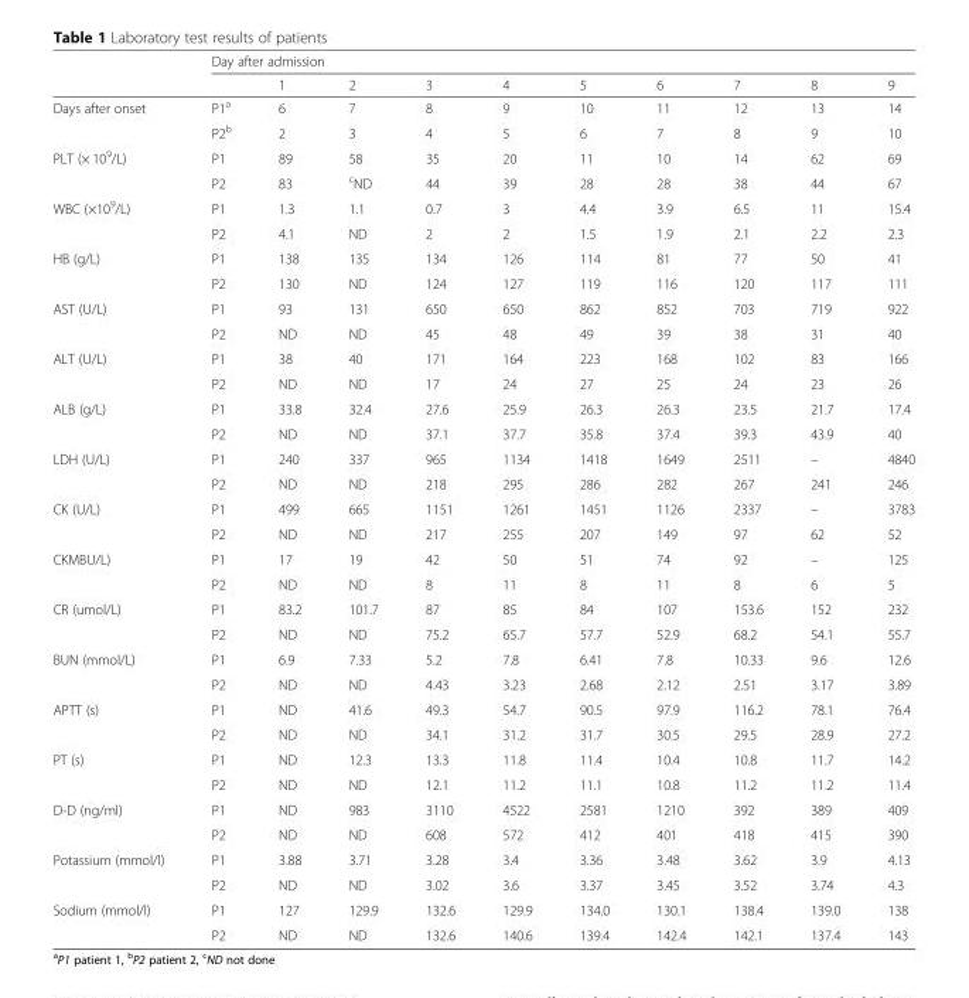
<table><thead><tr><td rowspan="2"></td><td colspan="10">Day after admission</td></tr><tr><td></td><td>1</td><td>2</td><td>3</td><td>4</td><td>5</td><td>6</td><td>7</td><td>8</td><td>9</td></tr></thead><tbody><tr><td rowspan="2">Days after onset</td><td>P1<sup>a</sup></td><td>6</td><td>7</td><td>8</td><td>9</td><td>10</td><td>11</td><td>12</td><td>13</td><td>14</td></tr><tr><td>P2<sup>b</sup></td><td>2</td><td>3</td><td>4</td><td>5</td><td>6</td><td>7</td><td>8</td><td>9</td><td>10</td></tr><tr><td rowspan="2">PLT (× 10<sup>9</sup>/L)</td><td>P1</td><td>89</td><td>58</td><td>35</td><td>20</td><td>11</td><td>10</td><td>14</td><td>62</td><td>69</td></tr><tr><td>P2</td><td>83</td><td><sup>c</sup>ND</td><td>44</td><td>39</td><td>28</td><td>28</td><td>38</td><td>44</td><td>67</td></tr><tr><td rowspan="2">WBC (×10<sup>9</sup>/L)</td><td>P1</td><td>1.3</td><td>1.1</td><td>0.7</td><td>3</td><td>4.4</td><td>3.9</td><td>6.5</td><td>11</td><td>15.4</td></tr><tr><td>P2</td><td>4.1</td><td>ND</td><td>2</td><td>2</td><td>1.5</td><td>1.9</td><td>2.1</td><td>2.2</td><td>2.3</td></tr><tr><td rowspan="2">HB (g/L)</td><td>P1</td><td>138</td><td>135</td><td>134</td><td>126</td><td>114</td><td>81</td><td>77</td><td>50</td><td>41</td></tr><tr><td>P2</td><td>130</td><td>ND</td><td>124</td><td>127</td><td>119</td><td>116</td><td>120</td><td>117</td><td>111</td></tr><tr><td rowspan="2">AST (U/L)</td><td>P1</td><td>93</td><td>131</td><td>650</td><td>650</td><td>862</td><td>852</td><td>703</td><td>719</td><td>922</td></tr><tr><td>P2</td><td>ND</td><td>ND</td><td>45</td><td>48</td><td>49</td><td>39</td><td>38</td><td>31</td><td>40</td></tr><tr><td rowspan="2">ALT (U/L)</td><td>P1</td><td>38</td><td>40</td><td>171</td><td>164</td><td>223</td><td>168</td><td>102</td><td>83</td><td>166</td></tr><tr><td>P2</td><td>ND</td><td>ND</td><td>17</td><td>24</td><td>27</td><td>25</td><td>24</td><td>23</td><td>26</td></tr><tr><td rowspan="2">ALB (g/L)</td><td>P1</td><td>33.8</td><td>32.4</td><td>27.6</td><td>25.9</td><td>26.3</td><td>26.3</td><td>23.5</td><td>21.7</td><td>17.4</td></tr><tr><td>P2</td><td>ND</td><td>ND</td><td>37.1</td><td>37.7</td><td>35.8</td><td>37.4</td><td>39.3</td><td>43.9</td><td>40</td></tr><tr><td rowspan="2">LDH (U/L)</td><td>P1</td><td>240</td><td>337</td><td>965</td><td>1134</td><td>1418</td><td>1649</td><td>2511</td><td>–</td><td>4840</td></tr><tr><td>P2</td><td>ND</td><td>ND</td><td>218</td><td>295</td><td>286</td><td>282</td><td>267</td><td>241</td><td>246</td></tr><tr><td rowspan="2">CK (U/L)</td><td>P1</td><td>499</td><td>665</td><td>1151</td><td>1261</td><td>1451</td><td>1126</td><td>2337</td><td>–</td><td>3783</td></tr><tr><td>P2</td><td>ND</td><td>ND</td><td>217</td><td>255</td><td>207</td><td>149</td><td>97</td><td>62</td><td>52</td></tr><tr><td rowspan="2">CKMBU/L)</td><td>P1</td><td>17</td><td>19</td><td>42</td><td>50</td><td>51</td><td>74</td><td>92</td><td>–</td><td>125</td></tr><tr><td>P2</td><td>ND</td><td>ND</td><td>8</td><td>11</td><td>8</td><td>11</td><td>8</td><td>6</td><td>5</td></tr><tr><td rowspan="2">CR (umol/L)</td><td>P1</td><td>83.2</td><td>101.7</td><td>87</td><td>85</td><td>84</td><td>107</td><td>153.6</td><td>152</td><td>232</td></tr><tr><td>P2</td><td>ND</td><td>ND</td><td>75.2</td><td>65.7</td><td>57.7</td><td>52.9</td><td>68.2</td><td>54.1</td><td>55.7</td></tr><tr><td rowspan="2">BUN (mmol/L)</td><td>P1</td><td>6.9</td><td>7.33</td><td>5.2</td><td>7.8</td><td>6.41</td><td>7.8</td><td>10.33</td><td>9.6</td><td>12.6</td></tr><tr><td>P2</td><td>ND</td><td>ND</td><td>4.43</td><td>3.23</td><td>2.68</td><td>2.12</td><td>2.51</td><td>3.17</td><td>3.89</td></tr><tr><td rowspan="2">APTT (s)</td><td>P1</td><td>ND</td><td>41.6</td><td>49.3</td><td>54.7</td><td>90.5</td><td>97.9</td><td>116.2</td><td>78.1</td><td>76.4</td></tr><tr><td>P2</td><td>ND</td><td>ND</td><td>34.1</td><td>31.2</td><td>31.7</td><td>30.5</td><td>29.5</td><td>28.9</td><td>27.2</td></tr><tr><td rowspan="2">PT (s)</td><td>P1</td><td>ND</td><td>12.3</td><td>13.3</td><td>11.8</td><td>11.4</td><td>10.4</td><td>10.8</td><td>11.7</td><td>14.2</td></tr><tr><td>P2</td><td>ND</td><td>ND</td><td>12.1</td><td>11.2</td><td>11.1</td><td>10.8</td><td>11.2</td><td>11.2</td><td>11.4</td></tr><tr><td rowspan="2">D-D (ng/ml)</td><td>P1</td><td>ND</td><td>983</td><td>3110</td><td>4522</td><td>2581</td><td>1210</td><td>392</td><td>389</td><td>409</td></tr><tr><td>P2</td><td>ND</td><td>ND</td><td>608</td><td>572</td><td>412</td><td>401</td><td>418</td><td>415</td><td>390</td></tr><tr><td rowspan="2">Potassium (mmol/l)</td><td>P1</td><td>3.88</td><td>3.71</td><td>3.28</td><td>3.4</td><td>3.36</td><td>3.48</td><td>3.62</td><td>3.9</td><td>4.13</td></tr><tr><td>P2</td><td>ND</td><td>ND</td><td>3.02</td><td>3.6</td><td>3.37</td><td>3.45</td><td>3.52</td><td>3.74</td><td>4.3</td></tr><tr><td rowspan="2">Sodium (mmol/l)</td><td>P1</td><td>127</td><td>129.9</td><td>132.6</td><td>129.9</td><td>134.0</td><td>130.1</td><td>138.4</td><td>139.0</td><td>138</td></tr><tr><td>P2</td><td>ND</td><td>ND</td><td>132.6</td><td>140.6</td><td>139.4</td><td>142.4</td><td>142.1</td><td>137.4</td><td>143</td></tr></tbody></table>